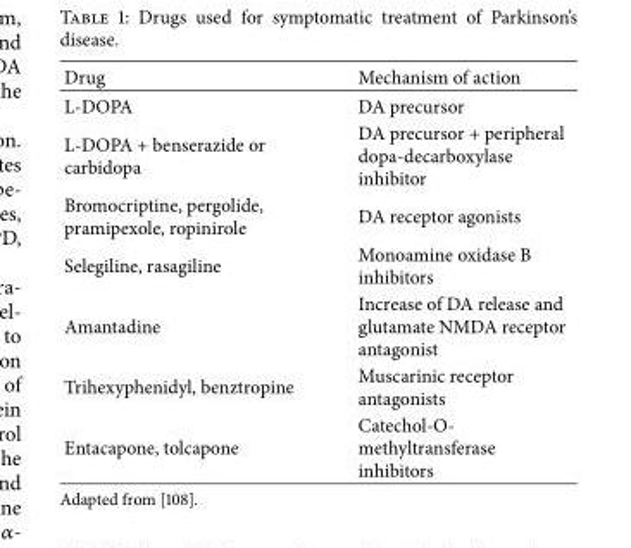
<table><thead><tr><td>Drug</td><td>Mechanism of action</td></tr></thead><tbody><tr><td>L-DOPA</td><td>DA precursor</td></tr><tr><td>L-DOPA + benserazide or carbidopa</td><td>DA precursor + peripheral dopa-decarboxylase inhibitor</td></tr><tr><td>Bromocriptine, pergolide, pramipexole, ropinirole</td><td>DA receptor agonists</td></tr><tr><td>Selegiline, rasagiline</td><td>Monoamine oxidase B inhibitors</td></tr><tr><td>Amantadine</td><td>Increase of DA release and glutamate NMDA receptor antagonist</td></tr><tr><td>Trihexyphenidyl, benztropine</td><td>Muscarinic receptor antagonists</td></tr><tr><td>Entacapone, tolcapone</td><td>Catechol-O- methyltransferase inhibitors</td></tr></tbody></table>